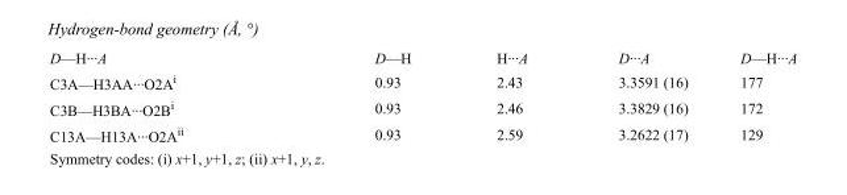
<table><tbody><tr><td>D—H···A</td><td>D—H</td><td>H···A</td><td>D···A</td><td>D—H···A</td></tr><tr><td>C3A—H3AA···O2A<sup>i</sup></td><td>0.93</td><td>2.43</td><td>3.3591 (16)</td><td>177</td></tr><tr><td>C3B—H3BA···O2B<sup>i</sup></td><td>0.93</td><td>2.46</td><td>3.3829 (16)</td><td>172</td></tr><tr><td>C13A—H13A···O2A<sup>ii</sup></td><td>0.93</td><td>2.59</td><td>3.2622 (17)</td><td>129</td></tr></tbody></table>